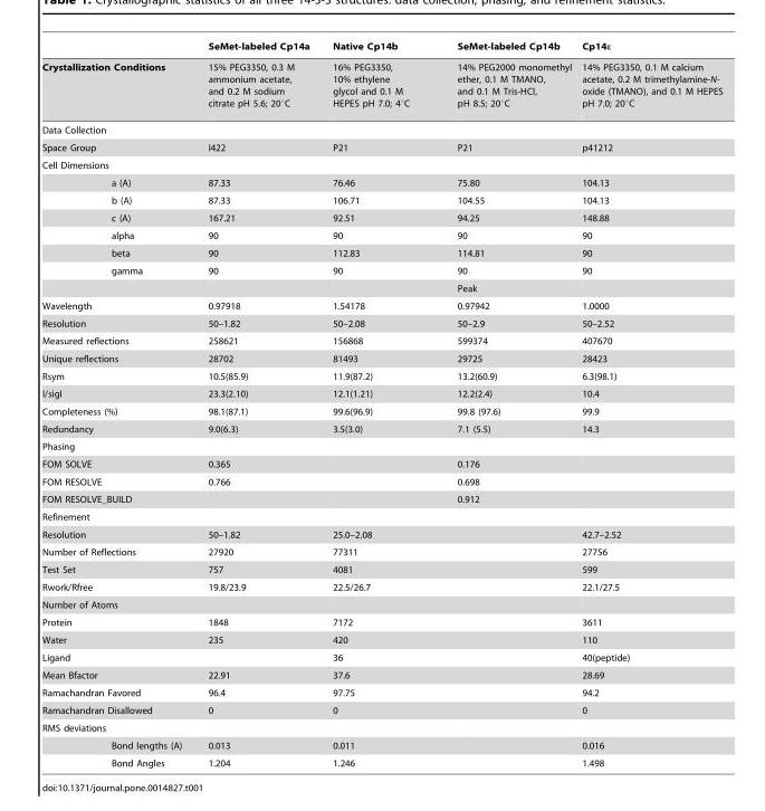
<table><thead><tr><td></td><td></td><td>SeMet-labeled Cp14a</td><td>Native Cp14b</td><td>SeMet-labeled Cp14b</td><td>Cp14ε</td></tr></thead><tbody><tr><td colspan="2">Crystallization Conditions</td><td>15% PEG3350, 0.3 M ammonium acetate, and 0.2 M sodium citrate pH 5.6; 20°C</td><td>16% PEG3350, 10% ethylene glycol and 0.1 M HEPES pH 7.0; 4°C</td><td>14% PEG2000 monomethyl ether, 0.1 M TMANO, and 0.1 M Tris-HCl, pH 8.5; 20°C</td><td>14% PEG3350, 0.1 M calcium acetate, 0.2 M trimethylamine-N- oxide (TMANO), and 0.1 M HEPES pH 7.0; 20°C</td></tr><tr><td colspan="6">Data Collection</td></tr><tr><td colspan="2">Space Group</td><td>I422</td><td>P21</td><td>P21</td><td>p41212</td></tr><tr><td colspan="6">Cell Dimensions</td></tr><tr><td></td><td>a (A)</td><td>87.33</td><td>76.46</td><td>75.80</td><td>104.13</td></tr><tr><td></td><td>b (A)</td><td>87.33</td><td>106.71</td><td>104.55</td><td>104.13</td></tr><tr><td></td><td>c (A)</td><td>167.21</td><td>92.51</td><td>94.25</td><td>148.88</td></tr><tr><td></td><td>alpha</td><td>90</td><td>90</td><td>90</td><td>90</td></tr><tr><td></td><td>beta</td><td>90</td><td>112.83</td><td>114.81</td><td>90</td></tr><tr><td></td><td>gamma</td><td>90</td><td>90</td><td>90</td><td>90</td></tr><tr><td></td><td></td><td></td><td></td><td>Peak</td><td></td></tr><tr><td colspan="2">Wavelength</td><td>0.97918</td><td>1.54178</td><td>0.97942</td><td>1.0000</td></tr><tr><td colspan="2">Resolution</td><td>50–1.82</td><td>50–2.08</td><td>50–2.9</td><td>50–2.52</td></tr><tr><td colspan="2">Measured reflections</td><td>258621</td><td>156868</td><td>599374</td><td>407670</td></tr><tr><td colspan="2">Unique reflections</td><td>28702</td><td>81493</td><td>29725</td><td>28423</td></tr><tr><td>Rsym</td><td></td><td>10.5(85.9)</td><td>11.9(87.2)</td><td>13.2(60.9)</td><td>6.3(98.1)</td></tr><tr><td>I/sigI</td><td></td><td>23.3(2.10)</td><td>12.1(1.21)</td><td>12.2(2.4)</td><td>10.4</td></tr><tr><td colspan="2">Completeness (%)</td><td>98.1(87.1)</td><td>99.6(96.9)</td><td>99.8 (97.6)</td><td>99.9</td></tr><tr><td colspan="2">Redundancy</td><td>9.0(6.3)</td><td>3.5(3.0)</td><td>7.1 (5.5)</td><td>14.3</td></tr><tr><td colspan="6">Phasing</td></tr><tr><td colspan="2">FOM SOLVE</td><td>0.365</td><td></td><td>0.176</td><td></td></tr><tr><td colspan="2">FOM RESOLVE</td><td>0.766</td><td></td><td>0.698</td><td></td></tr><tr><td colspan="2">FOM RESOLVE_BUILD</td><td></td><td></td><td>0.912</td><td></td></tr><tr><td colspan="6">Refinement</td></tr><tr><td colspan="2">Resolution</td><td>50–1.82</td><td>25.0–2.08</td><td></td><td>42.7–2.52</td></tr><tr><td colspan="2">Number of Reflections</td><td>27920</td><td>77311</td><td></td><td>27756</td></tr><tr><td>Test Set</td><td></td><td>757</td><td>4081</td><td></td><td>599</td></tr><tr><td colspan="2">Rwork/Rfree</td><td>19.8/23.9</td><td>22.5/26.7</td><td></td><td>22.1/27.5</td></tr><tr><td colspan="6">Number of Atoms</td></tr><tr><td>Protein</td><td></td><td>1848</td><td>7172</td><td></td><td>3611</td></tr><tr><td>Water</td><td></td><td>235</td><td>420</td><td></td><td>110</td></tr><tr><td>Ligand</td><td></td><td></td><td>36</td><td></td><td>40(peptide)</td></tr><tr><td colspan="2">Mean Bfactor</td><td>22.91</td><td>37.6</td><td></td><td>28.69</td></tr><tr><td colspan="2">Ramachandran Favored</td><td>96.4</td><td>97.75</td><td></td><td>94.2</td></tr><tr><td colspan="2">Ramachandran Disallowed</td><td>0</td><td>0</td><td></td><td>0</td></tr><tr><td colspan="6">RMS deviations</td></tr><tr><td></td><td>Bond lengths (A)</td><td>0.013</td><td>0.011</td><td></td><td>0.016</td></tr><tr><td></td><td>Bond Angles</td><td>1.204</td><td>1.246</td><td></td><td>1.498</td></tr></tbody></table>